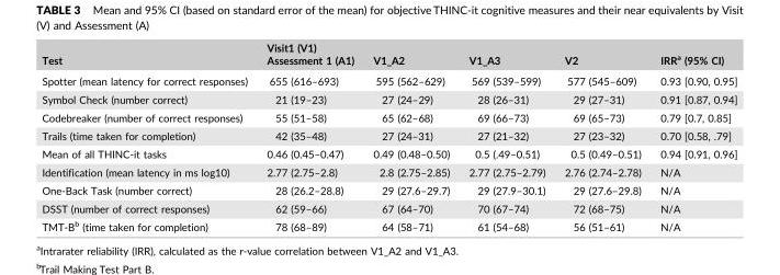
<table><thead><tr><td>Test</td><td>Visit1 (V1) Assessment 1 (A1)</td><td>V1_A2</td><td>V1_A3</td><td>V2</td><td>IRR<sup>a</sup> (95% CI)</td></tr></thead><tbody><tr><td>Spotter (mean latency for correct responses)</td><td>655 (616–693)</td><td>595 (562–629)</td><td>569 (539–599)</td><td>577 (545–609)</td><td>0.93 [0.90, 0.95]</td></tr><tr><td>Symbol Check (number correct)</td><td>21 (19–23)</td><td>27 (24–29)</td><td>28 (26–31)</td><td>29 (27–31)</td><td>0.91 [0.87, 0.94]</td></tr><tr><td>Codebreaker (number of correct responses)</td><td>55 (51–58)</td><td>65 (62–68)</td><td>69 (66–73)</td><td>69 (65–73)</td><td>0.79 [0.7, 0.85]</td></tr><tr><td>Trails (time taken for completion)</td><td>42 (35–48)</td><td>27 (24–31)</td><td>27 (21–32)</td><td>27 (23–32)</td><td>0.70 [0.58, .79]</td></tr><tr><td>Mean of all THINC‐it tasks</td><td>0.46 (0.45–0.47)</td><td>0.49 (0.48–0.50)</td><td>0.5 (.49–0.51)</td><td>0.5 (0.49–0.51)</td><td>0.94 [0.91, 0.96]</td></tr><tr><td>Identification (mean latency in ms log10)</td><td>2.77 (2.75–2.8)</td><td>2.8 (2.75–2.85)</td><td>2.77 (2.75–2.79)</td><td>2.76 (2.74–2.78)</td><td>N/A</td></tr><tr><td>One‐Back Task (number correct)</td><td>28 (26.2–28.8)</td><td>29 (27.6–29.7)</td><td>29 (27.9–30.1)</td><td>29 (27.6–29.8)</td><td>N/A</td></tr><tr><td>DSST (number of correct responses)</td><td>62 (59–66)</td><td>67 (64–70)</td><td>70 (67–74)</td><td>72 (68–75)</td><td>N/A</td></tr><tr><td>TMT‐B<sup>b</sup> (time taken for completion)</td><td>78 (68–89)</td><td>64 (58–71)</td><td>61 (54–68)</td><td>56 (51–61)</td><td>N/A</td></tr></tbody></table>